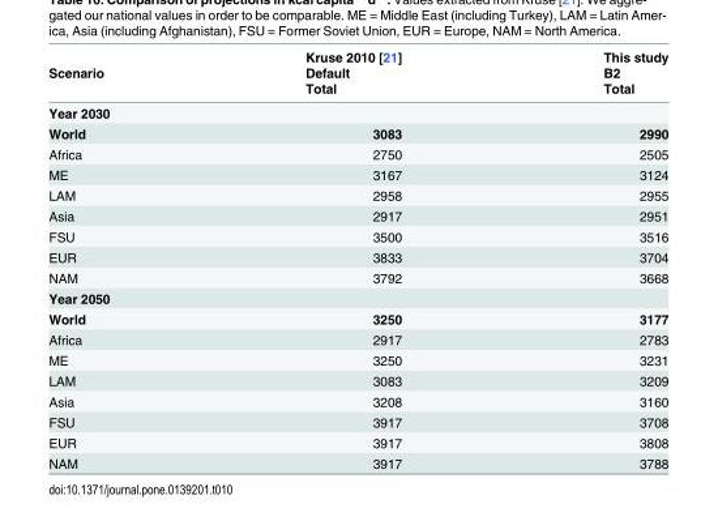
<table><thead><tr><td rowspan="3">Scenario</td><td rowspan="3">Kruse 2010 [21] Default Total</td><td rowspan="3">This study B2 Total</td></tr><tr></tr><tr></tr></thead><tbody><tr><td colspan="3">Year 2030</td></tr><tr><td>World</td><td>3083</td><td>2990</td></tr><tr><td>Africa</td><td>2750</td><td>2505</td></tr><tr><td>ME</td><td>3167</td><td>3124</td></tr><tr><td>LAM</td><td>2958</td><td>2955</td></tr><tr><td>Asia</td><td>2917</td><td>2951</td></tr><tr><td>FSU</td><td>3500</td><td>3516</td></tr><tr><td>EUR</td><td>3833</td><td>3704</td></tr><tr><td>NAM</td><td>3792</td><td>3668</td></tr><tr><td colspan="3">Year 2050</td></tr><tr><td>World</td><td>3250</td><td>3177</td></tr><tr><td>Africa</td><td>2917</td><td>2783</td></tr><tr><td>ME</td><td>3250</td><td>3231</td></tr><tr><td>LAM</td><td>3083</td><td>3209</td></tr><tr><td>Asia</td><td>3208</td><td>3160</td></tr><tr><td>FSU</td><td>3917</td><td>3708</td></tr><tr><td>EUR</td><td>3917</td><td>3808</td></tr><tr><td>NAM</td><td>3917</td><td>3788</td></tr></tbody></table>